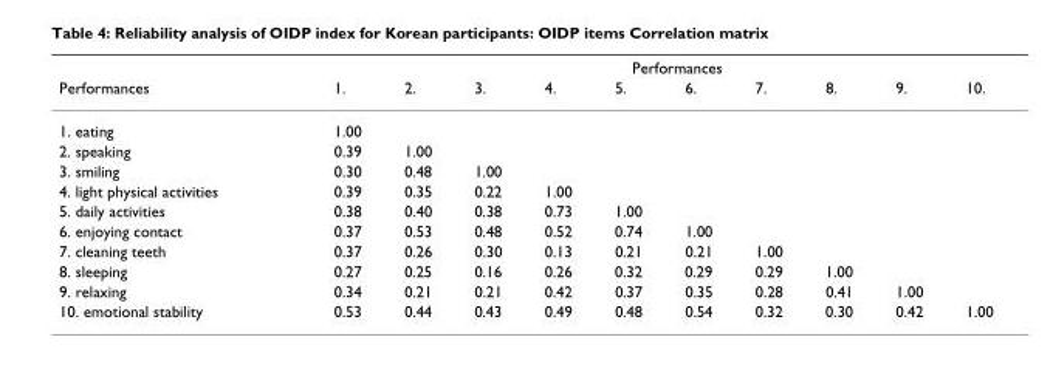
<table><thead><tr><td rowspan="2">Performances</td><td colspan="10">Performances</td></tr><tr><td>1.</td><td>2.</td><td>3.</td><td>4.</td><td>5.</td><td>6.</td><td>7.</td><td>8.</td><td>9.</td><td>10.</td></tr></thead><tbody><tr><td>1. eating</td><td>1.00</td><td></td><td></td><td></td><td></td><td></td><td></td><td></td><td></td><td></td></tr><tr><td>2. speaking</td><td>0.39</td><td>1.00</td><td></td><td></td><td></td><td></td><td></td><td></td><td></td><td></td></tr><tr><td>3. smiling</td><td>0.30</td><td>0.48</td><td>1.00</td><td></td><td></td><td></td><td></td><td></td><td></td><td></td></tr><tr><td>4. light physical activities</td><td>0.39</td><td>0.35</td><td>0.22</td><td>1.00</td><td></td><td></td><td></td><td></td><td></td><td></td></tr><tr><td>5. daily activities</td><td>0.38</td><td>0.40</td><td>0.38</td><td>0.73</td><td>1.00</td><td></td><td></td><td></td><td></td><td></td></tr><tr><td>6. enjoying contact</td><td>0.37</td><td>0.53</td><td>0.48</td><td>0.52</td><td>0.74</td><td>1.00</td><td></td><td></td><td></td><td></td></tr><tr><td>7. cleaning teeth</td><td>0.37</td><td>0.26</td><td>0.30</td><td>0.13</td><td>0.21</td><td>0.21</td><td>1.00</td><td></td><td></td><td></td></tr><tr><td>8. sleeping</td><td>0.27</td><td>0.25</td><td>0.16</td><td>0.26</td><td>0.32</td><td>0.29</td><td>0.29</td><td>1.00</td><td></td><td></td></tr><tr><td>9. relaxing</td><td>0.34</td><td>0.21</td><td>0.21</td><td>0.42</td><td>0.37</td><td>0.35</td><td>0.28</td><td>0.41</td><td>1.00</td><td></td></tr><tr><td>10. emotional stability</td><td>0.53</td><td>0.44</td><td>0.43</td><td>0.49</td><td>0.48</td><td>0.54</td><td>0.32</td><td>0.30</td><td>0.42</td><td>1.00</td></tr></tbody></table>